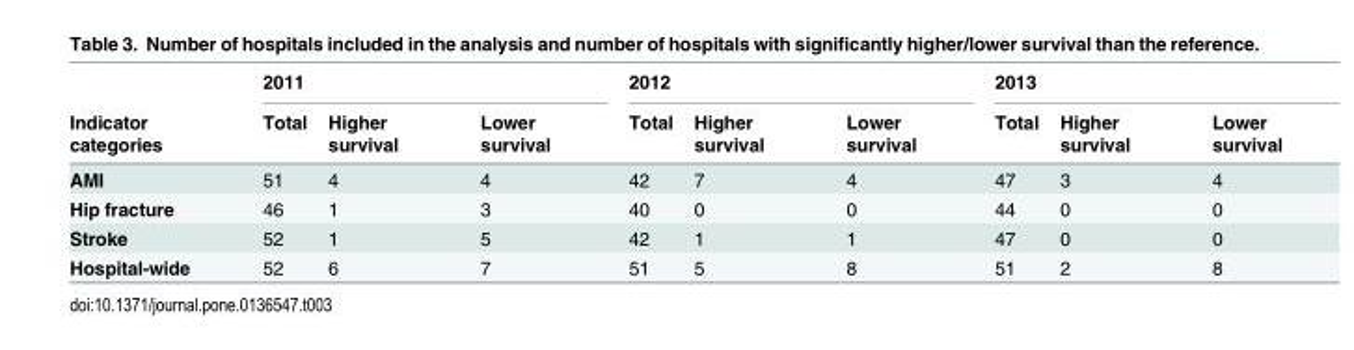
<table><thead><tr><td rowspan="2">Indicator categories</td><td colspan="3">2011</td><td colspan="3">2012</td><td colspan="3">2013</td></tr><tr><td>Total</td><td>Higher survival</td><td>Lower survival</td><td>Total</td><td>Higher survival</td><td>Lower survival</td><td>Total</td><td>Higher survival</td><td>Lower survival</td></tr></thead><tbody><tr><td>AMI</td><td>51</td><td>4</td><td>4</td><td>42</td><td>7</td><td>4</td><td>47</td><td>3</td><td>4</td></tr><tr><td>Hip fracture</td><td>46</td><td>1</td><td>3</td><td>40</td><td>0</td><td>0</td><td>44</td><td>0</td><td>0</td></tr><tr><td>Stroke</td><td>52</td><td>1</td><td>5</td><td>42</td><td>1</td><td>1</td><td>47</td><td>0</td><td>0</td></tr><tr><td>Hospital-wide</td><td>52</td><td>6</td><td>7</td><td>51</td><td>5</td><td>8</td><td>51</td><td>2</td><td>8</td></tr></tbody></table>